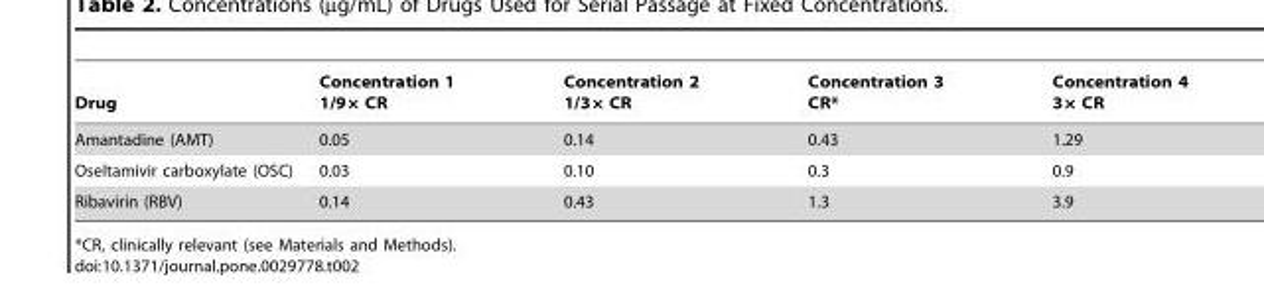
<table><thead><tr><td>Drug</td><td>Concentration 1 1/9× CR</td><td>Concentration 2 1/3× CR</td><td>Concentration 3 CR*</td><td>Concentration 4 3× CR</td></tr></thead><tbody><tr><td>Amantadine (AMT)</td><td>0.05</td><td>0.14</td><td>0.43</td><td>1.29</td></tr><tr><td>Oseltamivir carboxylate (OSC)</td><td>0.03</td><td>0.10</td><td>0.3</td><td>0.9</td></tr><tr><td>Ribavirin (RBV)</td><td>0.14</td><td>0.43</td><td>1.3</td><td>3.9</td></tr></tbody></table>